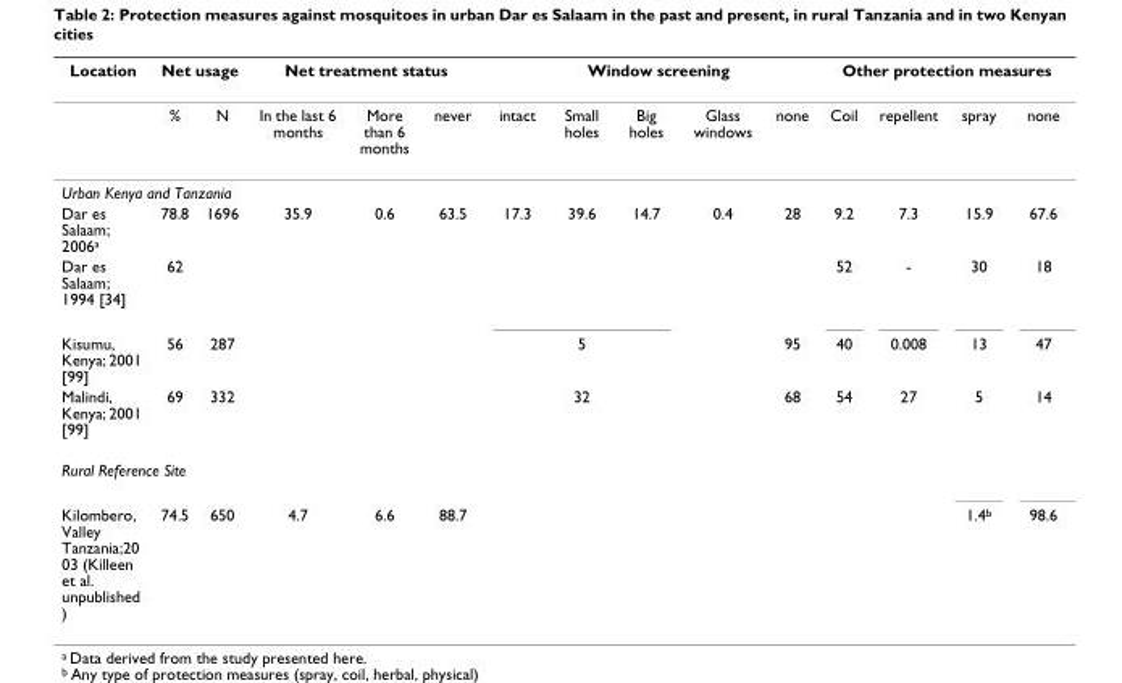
<table><thead><tr><td rowspan="2">Location</td><td colspan="2">Net usage</td><td colspan="3">Net treatment status</td><td rowspan="2">intact</td><td colspan="3">Window screening</td><td rowspan="2">none</td><td colspan="4">Other protection measures</td></tr><tr><td>%</td><td>N</td><td>In the last 6 months</td><td>More than 6 months</td><td>never</td><td>Small holes</td><td>Big holes</td><td>Glass windows</td><td>Coil</td><td>repellent</td><td>spray</td><td>none</td></tr></thead><tbody><tr><td colspan="15">Urban Kenya and Tanzania</td></tr><tr><td>Dar es Salaam; 2006<sup>a</sup></td><td>78.8</td><td>1696</td><td>35.9</td><td>0.6</td><td>63.5</td><td>17.3</td><td>39.6</td><td>14.7</td><td>0.4</td><td>28</td><td>9.2</td><td>7.3</td><td>15.9</td><td>67.6</td></tr><tr><td>Dar es Salaam; 1994 [34]</td><td>62</td><td></td><td></td><td></td><td></td><td></td><td></td><td></td><td></td><td></td><td>52</td><td>-</td><td>30</td><td>18</td></tr><tr><td>Kisumu, Kenya; 2001 [99]</td><td>56</td><td>287</td><td></td><td></td><td></td><td colspan="3">5</td><td></td><td>95</td><td>40</td><td>0.008</td><td>13</td><td>47</td></tr><tr><td>Malindi, Kenya; 2001 [99]</td><td>69</td><td>332</td><td></td><td></td><td></td><td colspan="3">32</td><td></td><td>68</td><td>54</td><td>27</td><td>5</td><td>14</td></tr><tr><td colspan="15">Rural Reference Site</td></tr><tr><td>Kilombero, Valley Tanzania;20 03 (Killeen et al. unpublished )</td><td>74.5</td><td>650</td><td>4.7</td><td>6.6</td><td>88.7</td><td></td><td></td><td></td><td></td><td></td><td></td><td></td><td>1.4<sup>b</sup></td><td>98.6</td></tr></tbody></table>